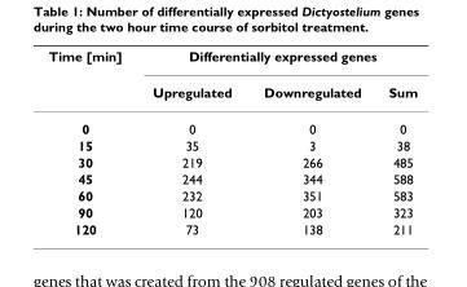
<table><thead><tr><td rowspan="2">Time [min]</td><td colspan="3">Differentially expressed genes</td></tr><tr><td>Upregulated</td><td>Downregulated</td><td>Sum</td></tr></thead><tbody><tr><td>0</td><td>0</td><td>0</td><td>0</td></tr><tr><td>15</td><td>35</td><td>3</td><td>38</td></tr><tr><td>30</td><td>219</td><td>266</td><td>485</td></tr><tr><td>45</td><td>244</td><td>344</td><td>588</td></tr><tr><td>60</td><td>232</td><td>351</td><td>583</td></tr><tr><td>90</td><td>120</td><td>203</td><td>323</td></tr><tr><td>120</td><td>73</td><td>138</td><td>211</td></tr></tbody></table>